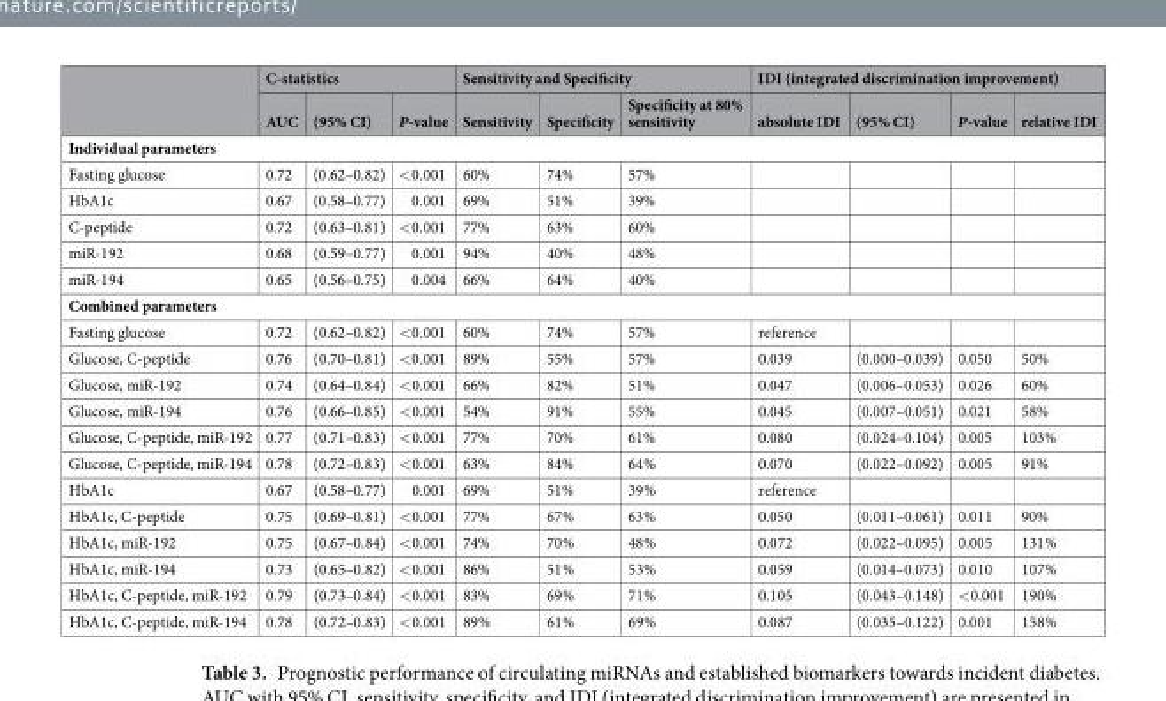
<table><thead><tr><td rowspan="2"></td><td colspan="3">C-statistics</td><td colspan="3">Sensitivity and Specificity</td><td colspan="4">IDI (integrated discrimination improvement)</td></tr><tr><td>AUC</td><td>(95% CI)</td><td>P-value</td><td>Sensitivity</td><td>Specificity</td><td>Specificity at 80% sensitivity</td><td>absolute IDI</td><td>(95% CI)</td><td>P-value</td><td>relative IDI</td></tr></thead><tbody><tr><td colspan="11">Individual parameters</td></tr><tr><td>Fasting glucose</td><td>0.72</td><td>(0.62–0.82)</td><td>&lt;0.001</td><td>60%</td><td>74%</td><td>57%</td><td></td><td></td><td></td><td></td></tr><tr><td>HbA1c</td><td>0.67</td><td>(0.58–0.77)</td><td>0.001</td><td>69%</td><td>51%</td><td>39%</td><td></td><td></td><td></td><td></td></tr><tr><td>C-peptide</td><td>0.72</td><td>(0.63–0.81)</td><td>&lt;0.001</td><td>77%</td><td>63%</td><td>60%</td><td></td><td></td><td></td><td></td></tr><tr><td>miR-192</td><td>0.68</td><td>(0.59–0.77)</td><td>0.001</td><td>94%</td><td>40%</td><td>48%</td><td></td><td></td><td></td><td></td></tr><tr><td>miR-194</td><td>0.65</td><td>(0.56–0.75)</td><td>0.004</td><td>66%</td><td>64%</td><td>40%</td><td></td><td></td><td></td><td></td></tr><tr><td colspan="11">Combined parameters</td></tr><tr><td>Fasting glucose</td><td>0.72</td><td>(0.62–0.82)</td><td>&lt;0.001</td><td>60%</td><td>74%</td><td>57%</td><td>reference</td><td></td><td></td><td></td></tr><tr><td>Glucose, C-peptide</td><td>0.76</td><td>(0.70–0.81)</td><td>&lt;0.001</td><td>89%</td><td>55%</td><td>57%</td><td>0.039</td><td>(0.000–0.039)</td><td>0.050</td><td>50%</td></tr><tr><td>Glucose, miR-192</td><td>0.74</td><td>(0.64–0.84)</td><td>&lt;0.001</td><td>66%</td><td>82%</td><td>51%</td><td>0.047</td><td>(0.006–0.053)</td><td>0.026</td><td>60%</td></tr><tr><td>Glucose, miR-194</td><td>0.76</td><td>(0.66–0.85)</td><td>&lt;0.001</td><td>54%</td><td>91%</td><td>55%</td><td>0.045</td><td>(0.007–0.051)</td><td>0.021</td><td>58%</td></tr><tr><td>Glucose, C-peptide, miR-192</td><td>0.77</td><td>(0.71–0.83)</td><td>&lt;0.001</td><td>77%</td><td>70%</td><td>61%</td><td>0.080</td><td>(0.024–0.104)</td><td>0.005</td><td>103%</td></tr><tr><td>Glucose, C-peptide, miR-194</td><td>0.78</td><td>(0.72–0.83)</td><td>&lt;0.001</td><td>63%</td><td>84%</td><td>64%</td><td>0.070</td><td>(0.022–0.092)</td><td>0.005</td><td>91%</td></tr><tr><td>HbA1c</td><td>0.67</td><td>(0.58–0.77)</td><td>0.001</td><td>69%</td><td>51%</td><td>39%</td><td>reference</td><td></td><td></td><td></td></tr><tr><td>HbA1c, C-peptide</td><td>0.75</td><td>(0.69–0.81)</td><td>&lt;0.001</td><td>77%</td><td>67%</td><td>63%</td><td>0.050</td><td>(0.011–0.061)</td><td>0.011</td><td>90%</td></tr><tr><td>HbA1c, miR-192</td><td>0.75</td><td>(0.67–0.84)</td><td>&lt;0.001</td><td>74%</td><td>70%</td><td>48%</td><td>0.072</td><td>(0.022–0.095)</td><td>0.005</td><td>131%</td></tr><tr><td>HbA1c, miR-194</td><td>0.73</td><td>(0.65–0.82)</td><td>&lt;0.001</td><td>86%</td><td>51%</td><td>53%</td><td>0.059</td><td>(0.014–0.073)</td><td>0.010</td><td>107%</td></tr><tr><td>HbA1c, C-peptide, miR-192</td><td>0.79</td><td>(0.73–0.84)</td><td>&lt;0.001</td><td>83%</td><td>69%</td><td>71%</td><td>0.105</td><td>(0.043–0.148)</td><td>&lt;0.001</td><td>190%</td></tr><tr><td>HbA1c, C-peptide, miR-194</td><td>0.78</td><td>(0.72–0.83)</td><td>&lt;0.001</td><td>89%</td><td>61%</td><td>69%</td><td>0.087</td><td>(0.035–0.122)</td><td>0.001</td><td>158%</td></tr></tbody></table>